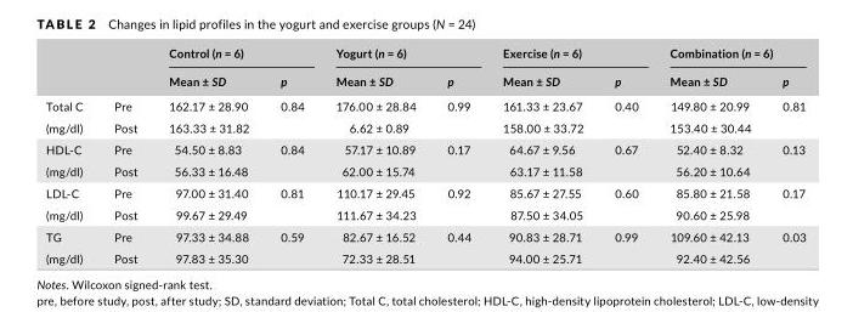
<table><thead><tr><td rowspan="2"></td><td rowspan="2"></td><td colspan="2">Control (n = 6)</td><td colspan="2">Yogurt (n = 6)</td><td colspan="2">Exercise (n = 6)</td><td colspan="2">Combination (n = 6)</td></tr><tr><td>Mean ± SD</td><td>p</td><td>Mean ± SD</td><td>p</td><td>Mean ± SD</td><td>p</td><td>Mean ± SD</td><td>p</td></tr></thead><tbody><tr><td>Total C</td><td>Pre</td><td>162.17 ± 28.90</td><td rowspan="2">0.84</td><td>176.00 ± 28.84</td><td rowspan="2">0.99</td><td>161.33 ± 23.67</td><td rowspan="2">0.40</td><td>149.80 ± 20.99</td><td rowspan="2">0.81</td></tr><tr><td>(mg/dl)</td><td>Post</td><td>163.33 ± 31.82</td><td>6.62 ± 0.89</td><td>158.00 ± 33.72</td><td>153.40 ± 30.44</td></tr><tr><td>HDL- C</td><td>Pre</td><td>54.50 ± 8.83</td><td rowspan="2">0.84</td><td>57.17 ± 10.89</td><td rowspan="2">0.17</td><td>64.67 ± 9.56</td><td rowspan="2">0.67</td><td>52.40 ± 8.32</td><td rowspan="2">0.13</td></tr><tr><td>(mg/dl)</td><td>Post</td><td>56.33 ± 16.48</td><td>62.00 ± 15.74</td><td>63.17 ± 11.58</td><td>56.20 ± 10.64</td></tr><tr><td>LDL- C</td><td>Pre</td><td>97.00 ± 31.40</td><td rowspan="2">0.81</td><td>110.17 ± 29.45</td><td rowspan="2">0.92</td><td>85.67 ± 27.55</td><td rowspan="2">0.60</td><td>85.80 ± 21.58</td><td rowspan="2">0.17</td></tr><tr><td>(mg/dl)</td><td>Post</td><td>99.67 ± 29.49</td><td>111.67 ± 34.23</td><td>87.50 ± 34.05</td><td>90.60 ± 25.98</td></tr><tr><td>TG</td><td>Pre</td><td>97.33 ± 34.88</td><td rowspan="2">0.59</td><td>82.67 ± 16.52</td><td rowspan="2">0.44</td><td>90.83 ± 28.71</td><td rowspan="2">0.99</td><td>109.60 ± 42.13</td><td rowspan="2">0.03</td></tr><tr><td>(mg/dl)</td><td>Post</td><td>97.83 ± 35.30</td><td>72.33 ± 28.51</td><td>94.00 ± 25.71</td><td>92.40 ± 42.56</td></tr></tbody></table>